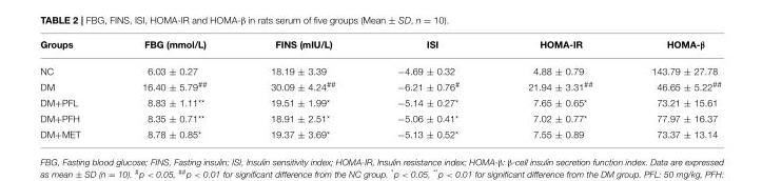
<table><thead><tr><td>Groups</td><td>FBG (mmol/L)</td><td>FINS (mIU/L)</td><td>ISI</td><td>HOMA-IR</td><td>HOMA-β</td></tr></thead><tbody><tr><td>NC</td><td>6.03 ± 0.27</td><td>18.19 ± 3.39</td><td>−4.69 ± 0.32</td><td>4.88 ± 0.79</td><td>143.79 ± 27.78</td></tr><tr><td>DM</td><td>16.40 ± 5.79<sup>##</sup></td><td>30.09 ± 4.24<sup>##</sup></td><td>−6.21 ± 0.76<sup>#</sup></td><td>21.94 ± 3.31<sup>##</sup></td><td>46.65 ± 5.22<sup>##</sup></td></tr><tr><td>DM+PFL</td><td>8.83 ± 1.11**</td><td>19.51 ± 1.99*</td><td>−5.14 ± 0.27*</td><td>7.65 ± 0.65*</td><td>73.21 ± 15.61</td></tr><tr><td>DM+PFH</td><td>8.35 ± 0.71**</td><td>18.91 ± 2.51*</td><td>−5.06 ± 0.41*</td><td>7.02 ± 0.77*</td><td>77.97 ± 16.37</td></tr><tr><td>DM+MET</td><td>8.78 ± 0.85*</td><td>19.37 ± 3.69*</td><td>−5.13 ± 0.52*</td><td>7.55 ± 0.89</td><td>73.37 ± 13.14</td></tr></tbody></table>